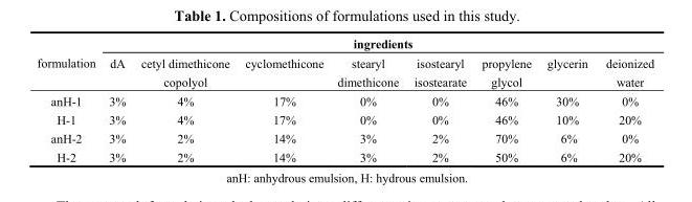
<table><thead><tr><td rowspan="2">formulation</td><td colspan="8">ingredients</td></tr><tr><td>dA</td><td>cetyl dimethicone copolyol</td><td>cyclomethicone</td><td>stearyl dimethicone</td><td>isostearyl isostearate</td><td>propylene glycol</td><td>glycerin</td><td>deionized water</td></tr></thead><tbody><tr><td>anH-1</td><td>3%</td><td>4%</td><td>17%</td><td>0%</td><td>0%</td><td>46%</td><td>30%</td><td>0%</td></tr><tr><td>H-1</td><td>3%</td><td>4%</td><td>17%</td><td>0%</td><td>0%</td><td>46%</td><td>10%</td><td>20%</td></tr><tr><td>anH-2</td><td>3%</td><td>2%</td><td>14%</td><td>3%</td><td>2%</td><td>70%</td><td>6%</td><td>0%</td></tr><tr><td>H-2</td><td>3%</td><td>2%</td><td>14%</td><td>3%</td><td>2%</td><td>50%</td><td>6%</td><td>20%</td></tr></tbody></table>